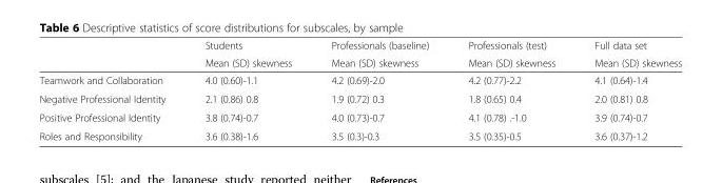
<table><thead><tr><td rowspan="2"></td><td rowspan="2">Students Mean (SD) skewness</td><td rowspan="2">Professionals (baseline) Mean (SD) skewness</td><td rowspan="2">Professionals (test) Mean (SD) skewness</td><td rowspan="2">Full data set Mean (SD) skewness</td></tr><tr></tr></thead><tbody><tr><td>Teamwork and Collaboration</td><td>4.0 (0.60)-1.1</td><td>4.2 (0.69)-2.0</td><td>4.2 (0.77)-2.2</td><td>4.1 (0.64)-1.4</td></tr><tr><td>Negative Professional Identity</td><td>2.1 (0.86) 0.8</td><td>1.9 (0.72) 0.3</td><td>1.8 (0.65) 0.4</td><td>2.0 (0.81) 0.8</td></tr><tr><td>Positive Professional Identity</td><td>3.8 (0.74)-0.7</td><td>4.0 (0.73)-0.7</td><td>4.1 (0.78) .-1.0</td><td>3.9 (0.74)-0.7</td></tr><tr><td>Roles and Responsibility</td><td>3.6 (0.38)-1.6</td><td>3.5 (0.3)-0.3</td><td>3.5 (0.35)-0.5</td><td>3.6 (0.37)-1.2</td></tr></tbody></table>